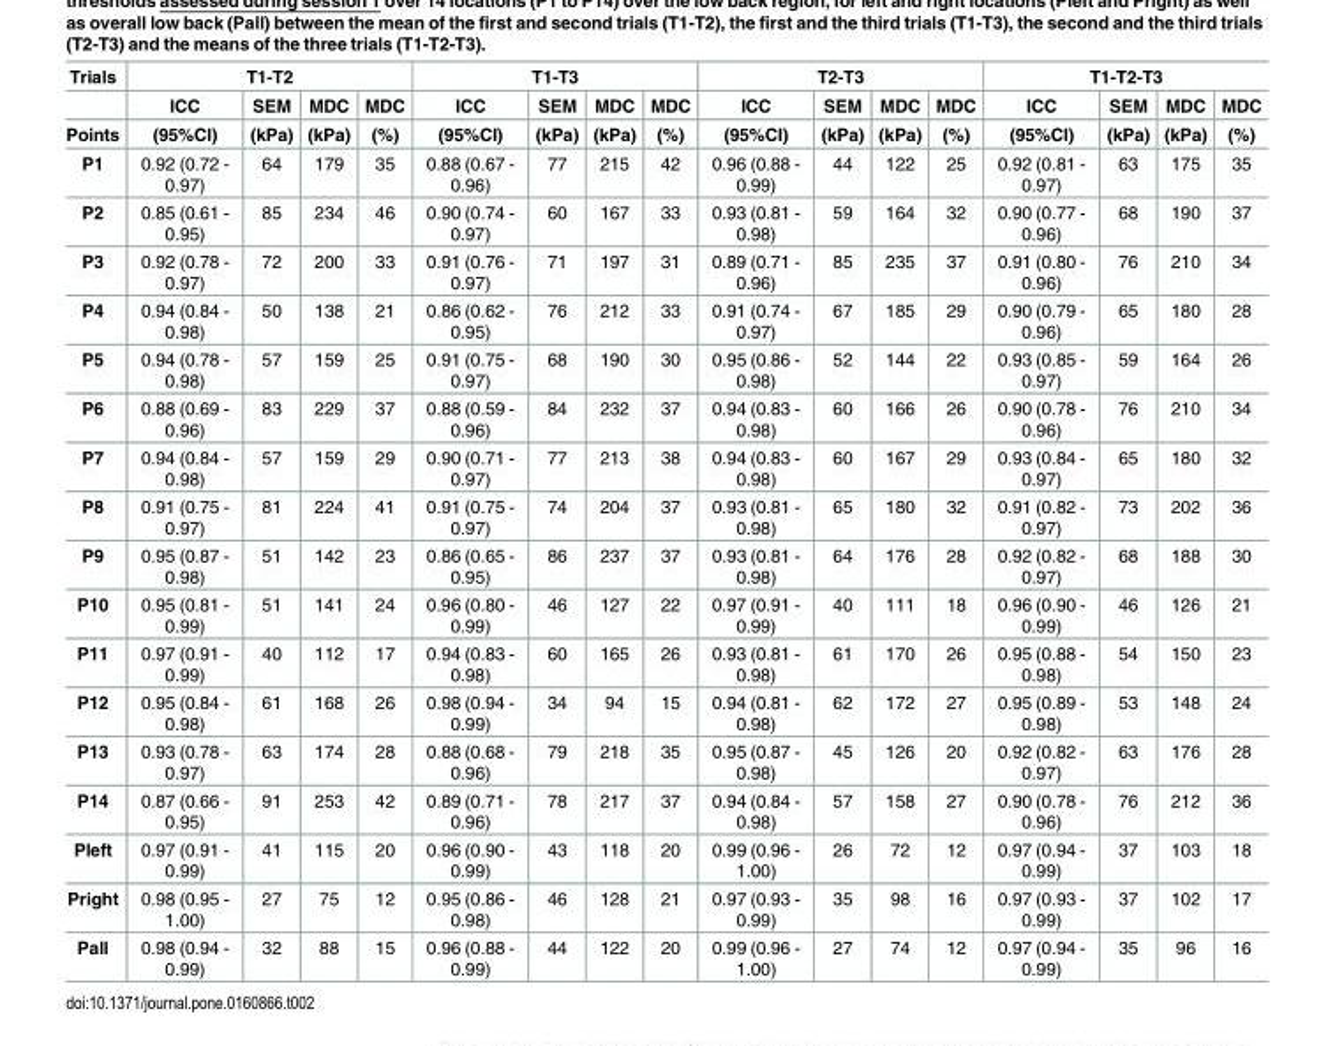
<table><thead><tr><td rowspan="3">Trials Points</td><td colspan="4">T1-T2</td><td colspan="4">T1-T3</td><td colspan="4">T2-T3</td><td colspan="4">T1-T2-T3</td></tr><tr><td rowspan="2">ICC (95%CI)</td><td rowspan="2">SEM (kPa)</td><td rowspan="2">MDC (kPa)</td><td rowspan="2">MDC (%)</td><td rowspan="2">ICC (95%CI)</td><td rowspan="2">SEM (kPa)</td><td rowspan="2">MDC (kPa)</td><td rowspan="2">MDC (%)</td><td rowspan="2">ICC (95%CI)</td><td rowspan="2">SEM (kPa)</td><td rowspan="2">MDC (kPa)</td><td rowspan="2">MDC (%)</td><td rowspan="2">ICC (95%CI)</td><td rowspan="2">SEM (kPa)</td><td rowspan="2">MDC (kPa)</td><td rowspan="2">MDC (%)</td></tr><tr></tr></thead><tbody><tr><td>P1</td><td>0.92 (0.72 - 0.97)</td><td>64</td><td>179</td><td>35</td><td>0.88 (0.67 - 0.96)</td><td>77</td><td>215</td><td>42</td><td>0.96 (0.88 - 0.99)</td><td>44</td><td>122</td><td>25</td><td>0.92 (0.81 - 0.97)</td><td>63</td><td>175</td><td>35</td></tr><tr><td>P2</td><td>0.85 (0.61 - 0.95)</td><td>85</td><td>234</td><td>46</td><td>0.90 (0.74 - 0.97)</td><td>60</td><td>167</td><td>33</td><td>0.93 (0.81 - 0.98)</td><td>59</td><td>164</td><td>32</td><td>0.90 (0.77 - 0.96)</td><td>68</td><td>190</td><td>37</td></tr><tr><td>P3</td><td>0.92 (0.78 - 0.97)</td><td>72</td><td>200</td><td>33</td><td>0.91 (0.76 - 0.97)</td><td>71</td><td>197</td><td>31</td><td>0.89 (0.71 - 0.96)</td><td>85</td><td>235</td><td>37</td><td>0.91 (0.80 - 0.96)</td><td>76</td><td>210</td><td>34</td></tr><tr><td>P4</td><td>0.94 (0.84 - 0.98)</td><td>50</td><td>138</td><td>21</td><td>0.86 (0.62 - 0.95)</td><td>76</td><td>212</td><td>33</td><td>0.91 (0.74 - 0.97)</td><td>67</td><td>185</td><td>29</td><td>0.90 (0.79 - 0.96)</td><td>65</td><td>180</td><td>28</td></tr><tr><td>P5</td><td>0.94 (0.78 - 0.98)</td><td>57</td><td>159</td><td>25</td><td>0.91 (0.75 - 0.97)</td><td>68</td><td>190</td><td>30</td><td>0.95 (0.86 - 0.98)</td><td>52</td><td>144</td><td>22</td><td>0.93 (0.85 - 0.97)</td><td>59</td><td>164</td><td>26</td></tr><tr><td>P6</td><td>0.88 (0.69 - 0.96)</td><td>83</td><td>229</td><td>37</td><td>0.88 (0.59 - 0.96)</td><td>84</td><td>232</td><td>37</td><td>0.94 (0.83 - 0.98)</td><td>60</td><td>166</td><td>26</td><td>0.90 (0.78 - 0.96)</td><td>76</td><td>210</td><td>34</td></tr><tr><td>P7</td><td>0.94 (0.84 - 0.98)</td><td>57</td><td>159</td><td>29</td><td>0.90 (0.71 - 0.97)</td><td>77</td><td>213</td><td>38</td><td>0.94 (0.83 - 0.98)</td><td>60</td><td>167</td><td>29</td><td>0.93 (0.84 - 0.97)</td><td>65</td><td>180</td><td>32</td></tr><tr><td>P8</td><td>0.91 (0.75 - 0.97)</td><td>81</td><td>224</td><td>41</td><td>0.91 (0.75 - 0.97)</td><td>74</td><td>204</td><td>37</td><td>0.93 (0.81 - 0.98)</td><td>65</td><td>180</td><td>32</td><td>0.91 (0.82 - 0.97)</td><td>73</td><td>202</td><td>36</td></tr><tr><td>P9</td><td>0.95 (0.87 - 0.98)</td><td>51</td><td>142</td><td>23</td><td>0.86 (0.65 - 0.95)</td><td>86</td><td>237</td><td>37</td><td>0.93 (0.81 - 0.98)</td><td>64</td><td>176</td><td>28</td><td>0.92 (0.82 - 0.97)</td><td>68</td><td>188</td><td>30</td></tr><tr><td>P10</td><td>0.95 (0.81 - 0.99)</td><td>51</td><td>141</td><td>24</td><td>0.96 (0.80 - 0.99)</td><td>46</td><td>127</td><td>22</td><td>0.97 (0.91 - 0.99)</td><td>40</td><td>111</td><td>18</td><td>0.96 (0.90 - 0.99)</td><td>46</td><td>126</td><td>21</td></tr><tr><td>P11</td><td>0.97 (0.91 - 0.99)</td><td>40</td><td>112</td><td>17</td><td>0.94 (0.83 - 0.98)</td><td>60</td><td>165</td><td>26</td><td>0.93 (0.81 - 0.98)</td><td>61</td><td>170</td><td>26</td><td>0.95 (0.88 - 0.98)</td><td>54</td><td>150</td><td>23</td></tr><tr><td>P12</td><td>0.95 (0.84 - 0.98)</td><td>61</td><td>168</td><td>26</td><td>0.98 (0.94 - 0.99)</td><td>34</td><td>94</td><td>15</td><td>0.94 (0.81 - 0.98)</td><td>62</td><td>172</td><td>27</td><td>0.95 (0.89 - 0.98)</td><td>53</td><td>148</td><td>24</td></tr><tr><td>P13</td><td>0.93 (0.78 - 0.97)</td><td>63</td><td>174</td><td>28</td><td>0.88 (0.68 - 0.96)</td><td>79</td><td>218</td><td>35</td><td>0.95 (0.87 - 0.98)</td><td>45</td><td>126</td><td>20</td><td>0.92 (0.82 - 0.97)</td><td>63</td><td>176</td><td>28</td></tr><tr><td>P14</td><td>0.87 (0.66 - 0.95)</td><td>91</td><td>253</td><td>42</td><td>0.89 (0.71 - 0.96)</td><td>78</td><td>217</td><td>37</td><td>0.94 (0.84 - 0.98)</td><td>57</td><td>158</td><td>27</td><td>0.90 (0.78 - 0.96)</td><td>76</td><td>212</td><td>36</td></tr><tr><td>Pleft</td><td>0.97 (0.91 - 0.99)</td><td>41</td><td>115</td><td>20</td><td>0.96 (0.90 - 0.99)</td><td>43</td><td>118</td><td>20</td><td>0.99 (0.96 - 1.00)</td><td>26</td><td>72</td><td>12</td><td>0.97 (0.94 - 0.99)</td><td>37</td><td>103</td><td>18</td></tr><tr><td>Pright</td><td>0.98 (0.95 - 1.00)</td><td>27</td><td>75</td><td>12</td><td>0.95 (0.86 - 0.98)</td><td>46</td><td>128</td><td>21</td><td>0.97 (0.93 - 0.99)</td><td>35</td><td>98</td><td>16</td><td>0.97 (0.93 - 0.99)</td><td>37</td><td>102</td><td>17</td></tr><tr><td>Pall</td><td>0.98 (0.94 - 0.99)</td><td>32</td><td>88</td><td>15</td><td>0.96 (0.88 - 0.99)</td><td>44</td><td>122</td><td>20</td><td>0.99 (0.96 - 1.00)</td><td>27</td><td>74</td><td>12</td><td>0.97 (0.94 - 0.99)</td><td>35</td><td>96</td><td>16</td></tr></tbody></table>